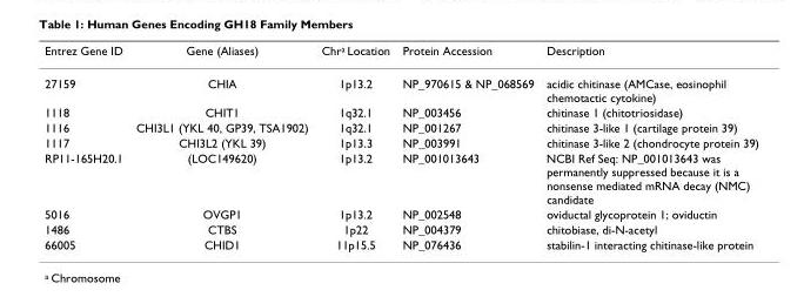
<table><thead><tr><td>Entrez Gene ID</td><td>Gene (Aliases)</td><td>Chr<sup>a</sup> Location</td><td>Protein Accession</td><td>Description</td></tr></thead><tbody><tr><td>27159</td><td>CHIA</td><td>1p13.2</td><td>NP_970615 &amp; NP_068569</td><td>acidic chitinase (AMCase, eosinophil chemotactic cytokine)</td></tr><tr><td>1118</td><td>CHIT1</td><td>1q32.1</td><td>NP_003456</td><td>chitinase 1 (chitotriosidase)</td></tr><tr><td>1116</td><td>CHI3L1 (YKL 40, GP39, TSA1902)</td><td>1q32.1</td><td>NP_001267</td><td>chitinase 3-like 1 (cartilage protein 39)</td></tr><tr><td>1117</td><td>CHI3L2 (YKL 39)</td><td>1p13.3</td><td>NP_003991</td><td>chitinase 3-like 2 (chondrocyte protein 39)</td></tr><tr><td>RP11-165H20.1</td><td>(LOC149620)</td><td>1p13.2</td><td>NP_001013643</td><td>NCBI Ref Seq: NP_001013643 was permanently suppressed because it is a nonsense mediated mRNA decay (NMC) candidate</td></tr><tr><td>5016</td><td>OVGP1</td><td>1p13.2</td><td>NP_002548</td><td>oviductal glycoprotein 1; oviductin</td></tr><tr><td>1486</td><td>CTBS</td><td>1p22</td><td>NP_004379</td><td>chitobiase, di-N-acetyl</td></tr><tr><td>66005</td><td>CHID1</td><td>11p15.5</td><td>NP_076436</td><td>stabilin-1 interacting chitinase-like protein</td></tr></tbody></table>